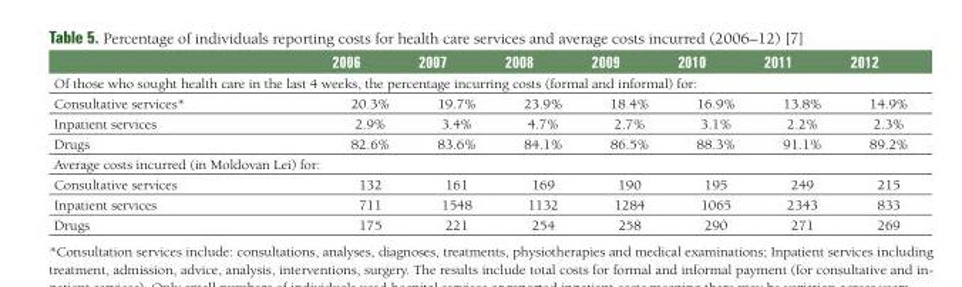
<table><thead><tr><td></td><td>2006</td><td>2007</td><td>2008</td><td>2009</td><td>2010</td><td>2011</td><td>2012</td></tr></thead><tbody><tr><td colspan="8">Of those who sought health care in the last 4 weeks, the percentage incurring costs (formal and informal) for:</td></tr><tr><td>Consultative services*</td><td>20.3%</td><td>19.7%</td><td>23.9%</td><td>18.4%</td><td>16.9%</td><td>13.8%</td><td>14.9%</td></tr><tr><td>Inpatient services</td><td>2.9%</td><td>3.4%</td><td>4.7%</td><td>2.7%</td><td>3.1%</td><td>2.2%</td><td>2.3%</td></tr><tr><td>Drugs</td><td>82.6%</td><td>83.6%</td><td>84.1%</td><td>86.5%</td><td>88.3%</td><td>91.1%</td><td>89.2%</td></tr><tr><td colspan="8">Average costs incurred (in Moldovan Lei) for:</td></tr><tr><td>Consultative services</td><td>132</td><td>161</td><td>169</td><td>190</td><td>195</td><td>249</td><td>215</td></tr><tr><td>Inpatient services</td><td>711</td><td>1548</td><td>1132</td><td>1284</td><td>1065</td><td>2343</td><td>833</td></tr><tr><td>Drugs</td><td>175</td><td>221</td><td>254</td><td>258</td><td>290</td><td>271</td><td>269</td></tr></tbody></table>